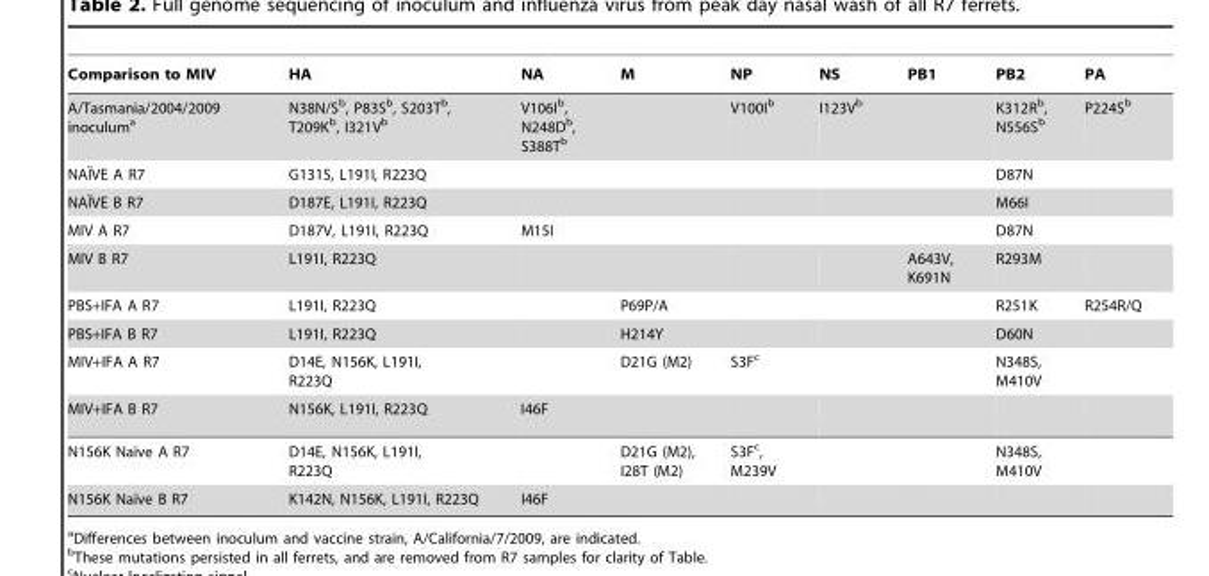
<table><thead><tr><td>Comparison to MIV</td><td>HA</td><td>NA</td><td>M</td><td>NP</td><td>NS</td><td>PB1</td><td>PB2</td><td>PA</td></tr></thead><tbody><tr><td>A/Tasmania/2004/2009 inoculum<sup>a</sup></td><td>N38N/S<sup>b</sup>, P83S<sup>b</sup>, S203T<sup>b</sup>, T209K<sup>b</sup>, I321V<sup>b</sup></td><td>V106I<sup>b</sup>, N248D<sup>b</sup>, S388T<sup>b</sup></td><td></td><td>V100I<sup>b</sup></td><td>I123V<sup>b</sup></td><td></td><td>K312R<sup>b</sup>, N556S<sup>b</sup></td><td>P224S<sup>b</sup></td></tr><tr><td>NAI¨VE A R7</td><td>G131S, L191I, R223Q</td><td></td><td></td><td></td><td></td><td></td><td>D87N</td><td></td></tr><tr><td>NAI¨VE B R7</td><td>D187E, L191I, R223Q</td><td></td><td></td><td></td><td></td><td></td><td>M66I</td><td></td></tr><tr><td>MIV A R7</td><td>D187V, L191I, R223Q</td><td>M15I</td><td></td><td></td><td></td><td></td><td>D87N</td><td></td></tr><tr><td>MIV B R7</td><td>L191I, R223Q</td><td></td><td></td><td></td><td></td><td>A643V, K691N</td><td>R293M</td><td></td></tr><tr><td>PBS+IFA A R7</td><td>L191I, R223Q</td><td></td><td>P69P/A</td><td></td><td></td><td></td><td>R251K</td><td>R254R/Q</td></tr><tr><td>PBS+IFA B R7</td><td>L191I, R223Q</td><td></td><td>H214Y</td><td></td><td></td><td></td><td>D60N</td><td></td></tr><tr><td>MIV+IFA A R7</td><td>D14E, N156K, L191I, R223Q</td><td></td><td>D21G (M2)</td><td>S3F<sup>c</sup></td><td></td><td></td><td>N348S, M410V</td><td></td></tr><tr><td>MIV+IFA B R7</td><td>N156K, L191I, R223Q</td><td>I46F</td><td></td><td></td><td></td><td></td><td></td><td></td></tr><tr><td>N156K Naı¨ve A R7</td><td>D14E, N156K, L191I, R223Q</td><td></td><td>D21G (M2), I28T (M2)</td><td>S3F<sup>c</sup>, M239V</td><td></td><td></td><td>N348S, M410V</td><td></td></tr><tr><td>N156K Naı¨ve B R7</td><td>K142N, N156K, L191I, R223Q</td><td>I46F</td><td></td><td></td><td></td><td></td><td></td><td></td></tr></tbody></table>